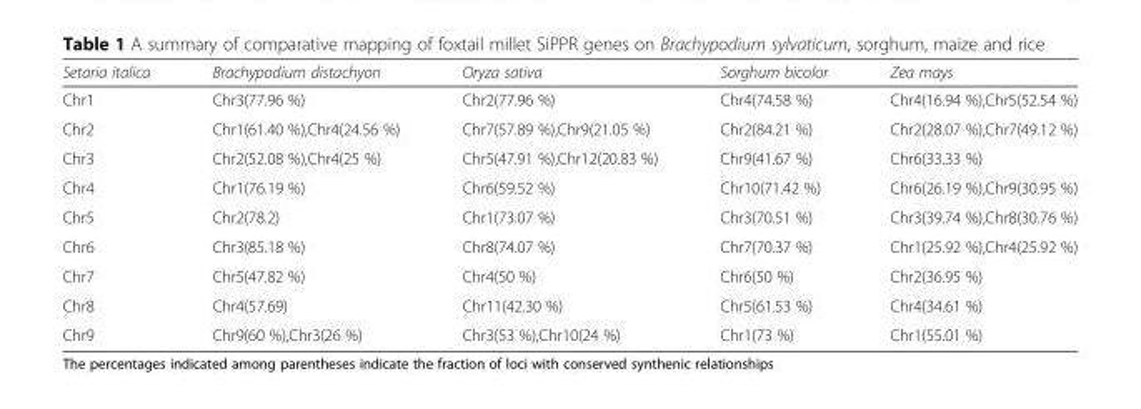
<table><thead><tr><td>Setaria italica</td><td>Brachypodium distachyon</td><td>Oryza sativa</td><td>Sorghum bicolor</td><td>Zea mays</td></tr></thead><tbody><tr><td>Chr1</td><td>Chr3(77.96 %)</td><td>Chr2(77.96 %)</td><td>Chr4(74.58 %)</td><td>Chr4(16.94 %),Chr5(52.54 %)</td></tr><tr><td>Chr2</td><td>Chr1(61.40 %),Chr4(24.56 %)</td><td>Chr7(57.89 %),Chr9(21.05 %)</td><td>Chr2(84.21 %)</td><td>Chr2(28.07 %),Chr7(49.12 %)</td></tr><tr><td>Chr3</td><td>Chr2(52.08 %),Chr4(25 %)</td><td>Chr5(47.91 %),Chr12(20.83 %)</td><td>Chr9(41.67 %)</td><td>Chr6(33.33 %)</td></tr><tr><td>Chr4</td><td>Chr1(76.19 %)</td><td>Chr6(59.52 %)</td><td>Chr10(71.42 %)</td><td>Chr6(26.19 %),Chr9(30.95 %)</td></tr><tr><td>Chr5</td><td>Chr2(78.2)</td><td>Chr1(73.07 %)</td><td>Chr3(70.51 %)</td><td>Chr3(39.74 %),Chr8(30.76 %)</td></tr><tr><td>Chr6</td><td>Chr3(85.18 %)</td><td>Chr8(74.07 %)</td><td>Chr7(70.37 %)</td><td>Chr1(25.92 %),Chr4(25.92 %)</td></tr><tr><td>Chr7</td><td>Chr5(47.82 %)</td><td>Chr4(50 %)</td><td>Chr6(50 %)</td><td>Chr2(36.95 %)</td></tr><tr><td>Chr8</td><td>Chr4(57.69)</td><td>Chr11(42.30 %)</td><td>Chr5(61.53 %)</td><td>Chr4(34.61 %)</td></tr><tr><td>Chr9</td><td>Chr9(60 %),Chr3(26 %)</td><td>Chr3(53 %),Chr10(24 %)</td><td>Chr1(73 %)</td><td>Chr1(55.01 %)</td></tr></tbody></table>